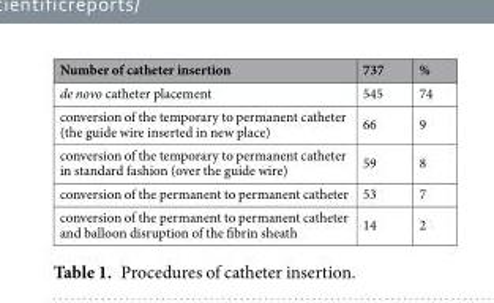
<table><thead><tr><td>Number of catheter insertion</td><td>737</td><td>%</td></tr></thead><tbody><tr><td>de novo catheter placement</td><td>545</td><td>74</td></tr><tr><td>conversion of the temporary to permanent catheter (the guide wire inserted in new place)</td><td>66</td><td>9</td></tr><tr><td>conversion of the temporary to permanent catheter in standard fashion (over the guide wire)</td><td>59</td><td>8</td></tr><tr><td>conversion of the permanent to permanent catheter</td><td>53</td><td>7</td></tr><tr><td>conversion of the permanent to permanent catheter and balloon disruption of the fibrin sheath</td><td>14</td><td>2</td></tr></tbody></table>